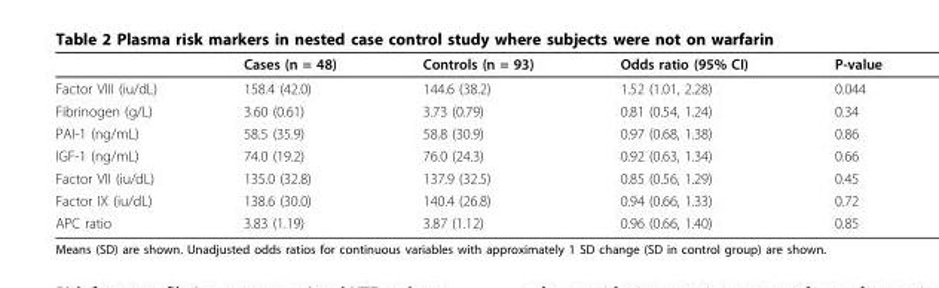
<table><thead><tr><td></td><td>Cases (n = 48)</td><td>Controls (n = 93)</td><td>Odds ratio (95% CI)</td><td>P-value</td></tr></thead><tbody><tr><td>Factor VIII (iu/dL)</td><td>158.4 (42.0)</td><td>144.6 (38.2)</td><td>1.52 (1.01, 2.28)</td><td>0.044</td></tr><tr><td>Fibrinogen (g/L)</td><td>3.60 (0.61)</td><td>3.73 (0.79)</td><td>0.81 (0.54, 1.24)</td><td>0.34</td></tr><tr><td>PAI-1 (ng/mL)</td><td>58.5 (35.9)</td><td>58.8 (30.9)</td><td>0.97 (0.68, 1.38)</td><td>0.86</td></tr><tr><td>IGF-1 (ng/mL)</td><td>74.0 (19.2)</td><td>76.0 (24.3)</td><td>0.92 (0.63, 1.34)</td><td>0.66</td></tr><tr><td>Factor VII (iu/dL)</td><td>135.0 (32.8)</td><td>137.9 (32.5)</td><td>0.85 (0.56, 1.29)</td><td>0.45</td></tr><tr><td>Factor IX (iu/dL)</td><td>138.6 (30.0)</td><td>140.4 (26.8)</td><td>0.94 (0.66, 1.33)</td><td>0.72</td></tr><tr><td>APC ratio</td><td>3.83 (1.19)</td><td>3.87 (1.12)</td><td>0.96 (0.66, 1.40)</td><td>0.85</td></tr></tbody></table>